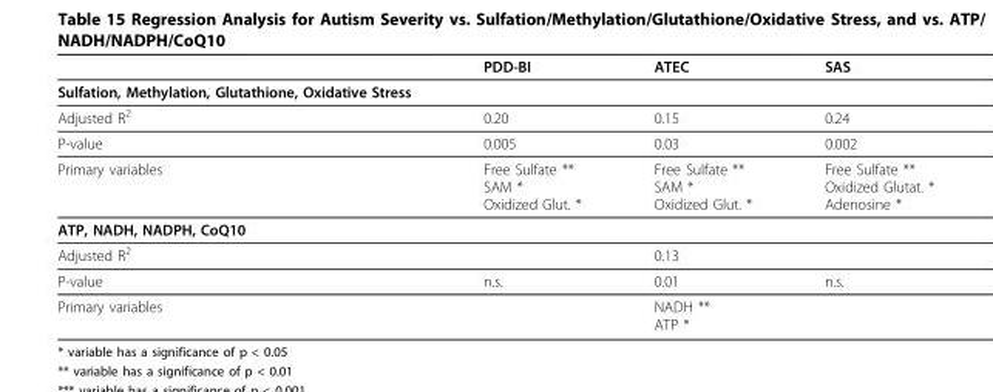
<table><thead><tr><td></td><td>PDD-BI</td><td>ATEC</td><td>SAS</td></tr></thead><tbody><tr><td colspan="4">Sulfation, Methylation, Glutathione, Oxidative Stress</td></tr><tr><td>Adjusted R<sup>2</sup></td><td>0.20</td><td>0.15</td><td>0.24</td></tr><tr><td>P-value</td><td>0.005</td><td>0.03</td><td>0.002</td></tr><tr><td>Primary variables</td><td>Free Sulfate ** SAM * Oxidized Glut. *</td><td>Free Sulfate ** SAM * Oxidized Glut. *</td><td>Free Sulfate ** Oxidized Glutat. * Adenosine *</td></tr><tr><td colspan="4">ATP, NADH, NADPH, CoQ10</td></tr><tr><td>Adjusted R<sup>2</sup></td><td></td><td>0.13</td><td></td></tr><tr><td>P-value</td><td>n.s.</td><td>0.01</td><td>n.s.</td></tr><tr><td>Primary variables</td><td></td><td>NADH ** ATP *</td><td></td></tr></tbody></table>